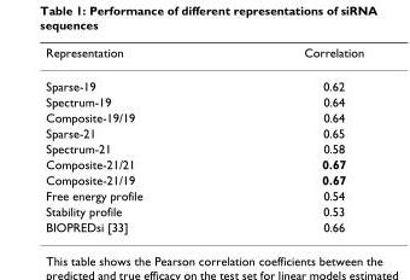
<table><thead><tr><td>Representation</td><td>Correlation</td></tr></thead><tbody><tr><td>Sparse-19</td><td>0.62</td></tr><tr><td>Spectrum-19</td><td>0.64</td></tr><tr><td>Composite-19/19</td><td>0.64</td></tr><tr><td>Sparse-21</td><td>0.65</td></tr><tr><td>Spectrum-21</td><td>0.58</td></tr><tr><td>Composite-21/21</td><td>0.67</td></tr><tr><td>Composite-21/19</td><td>0.67</td></tr><tr><td>Free energy profile</td><td>0.54</td></tr><tr><td>Stability profile</td><td>0.53</td></tr><tr><td>BIOPREDsi [33]</td><td>0.66</td></tr></tbody></table>